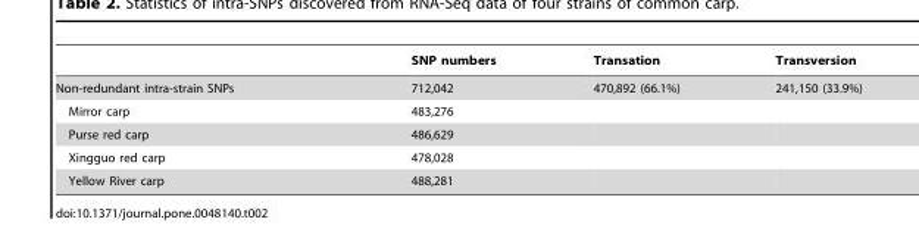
<table><thead><tr><td></td><td>SNP numbers</td><td>Transation</td><td>Transversion</td></tr></thead><tbody><tr><td>Non-redundant intra-strain SNPs</td><td>712,042</td><td>470,892 (66.1%)</td><td>241,150 (33.9%)</td></tr><tr><td>Mirror carp</td><td>483,276</td><td></td><td></td></tr><tr><td>Purse red carp</td><td>486,629</td><td></td><td></td></tr><tr><td>Xingguo red carp</td><td>478,028</td><td></td><td></td></tr><tr><td>Yellow River carp</td><td>488,281</td><td></td><td></td></tr></tbody></table>